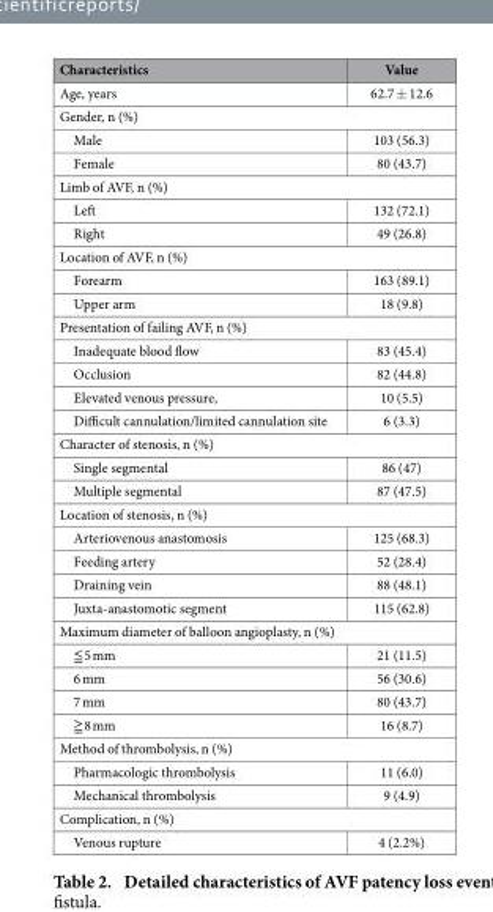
<table><thead><tr><td>Characteristics</td><td>Value</td></tr></thead><tbody><tr><td>Age, years</td><td>62.7 ± 12.6</td></tr><tr><td colspan="2">Gender, n (%)</td></tr><tr><td>Male</td><td>103 (56.3)</td></tr><tr><td>Female</td><td>80 (43.7)</td></tr><tr><td colspan="2">Limb of AVF, n (%)</td></tr><tr><td>Left</td><td>132 (72.1)</td></tr><tr><td>Right</td><td>49 (26.8)</td></tr><tr><td colspan="2">Location of AVF, n (%)</td></tr><tr><td>Forearm</td><td>163 (89.1)</td></tr><tr><td>Upper arm</td><td>18 (9.8)</td></tr><tr><td colspan="2">Presentation of failing AVF, n (%)</td></tr><tr><td>Inadequate blood flow</td><td>83 (45.4)</td></tr><tr><td>Occlusion</td><td>82 (44.8)</td></tr><tr><td>Elevated venous pressure,</td><td>10 (5.5)</td></tr><tr><td>Difficult cannulation/limited cannulation site</td><td>6 (3.3)</td></tr><tr><td colspan="2">Character of stenosis, n (%)</td></tr><tr><td>Single segmental</td><td>86 (47)</td></tr><tr><td>Multiple segmental</td><td>87 (47.5)</td></tr><tr><td colspan="2">Location of stenosis, n (%)</td></tr><tr><td>Arteriovenous anastomosis</td><td>125 (68.3)</td></tr><tr><td>Feeding artery</td><td>52 (28.4)</td></tr><tr><td>Draining vein</td><td>88 (48.1)</td></tr><tr><td>Juxta-anastomotic segment</td><td>115 (62.8)</td></tr><tr><td colspan="2">Maximum diameter of balloon angioplasty, n (%)</td></tr><tr><td>≦ 5 mm</td><td>21 (11.5)</td></tr><tr><td>6 mm</td><td>56 (30.6)</td></tr><tr><td>7 mm</td><td>80 (43.7)</td></tr><tr><td>≧ 8 mm</td><td>16 (8.7)</td></tr><tr><td colspan="2">Method of thrombolysis, n (%)</td></tr><tr><td>Pharmacologic thrombolysis</td><td>11 (6.0)</td></tr><tr><td>Mechanical thrombolysis</td><td>9 (4.9)</td></tr><tr><td colspan="2">Complication, n (%)</td></tr><tr><td>Venous rupture</td><td>4 (2.2%)</td></tr></tbody></table>